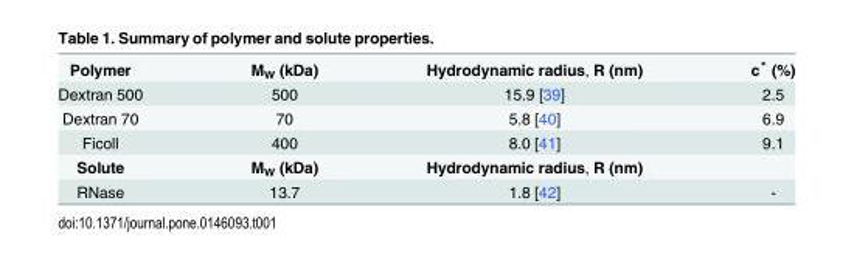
<table><tbody><tr><td>Polymer</td><td>M<sub>W</sub> (kDa)</td><td>Hydrodynamic radius, R (nm)</td><td>c* (%)</td></tr><tr><td>Dextran 500</td><td>500</td><td>15.9 [39]</td><td>2.5</td></tr><tr><td>Dextran 70</td><td>70</td><td>5.8 [40]</td><td>6.9</td></tr><tr><td>Ficoll</td><td>400</td><td>8.0 [41]</td><td>9.1</td></tr><tr><td>Solute</td><td>M<sub>W</sub> (kDa)</td><td>Hydrodynamic radius, R (nm)</td><td></td></tr><tr><td>RNase</td><td>13.7</td><td>1.8 [42]</td><td>-</td></tr></tbody></table>